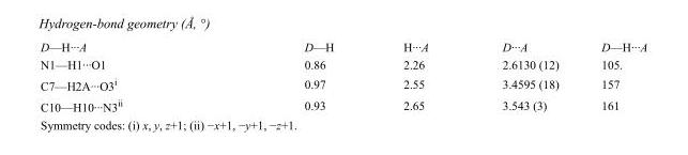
<table><tbody><tr><td>D—H···A</td><td>D—H</td><td>H···A</td><td>D···A</td><td>D—H···A</td></tr><tr><td>N1—H1···O1</td><td>0.86</td><td>2.26</td><td>2.6130 (12)</td><td>105.</td></tr><tr><td>C7—H2A···O3<sup>i</sup></td><td>0.97</td><td>2.55</td><td>3.4595 (18)</td><td>157</td></tr><tr><td>C10—H10···N3<sup>ii</sup></td><td>0.93</td><td>2.65</td><td>3.543 (3)</td><td>161</td></tr></tbody></table>